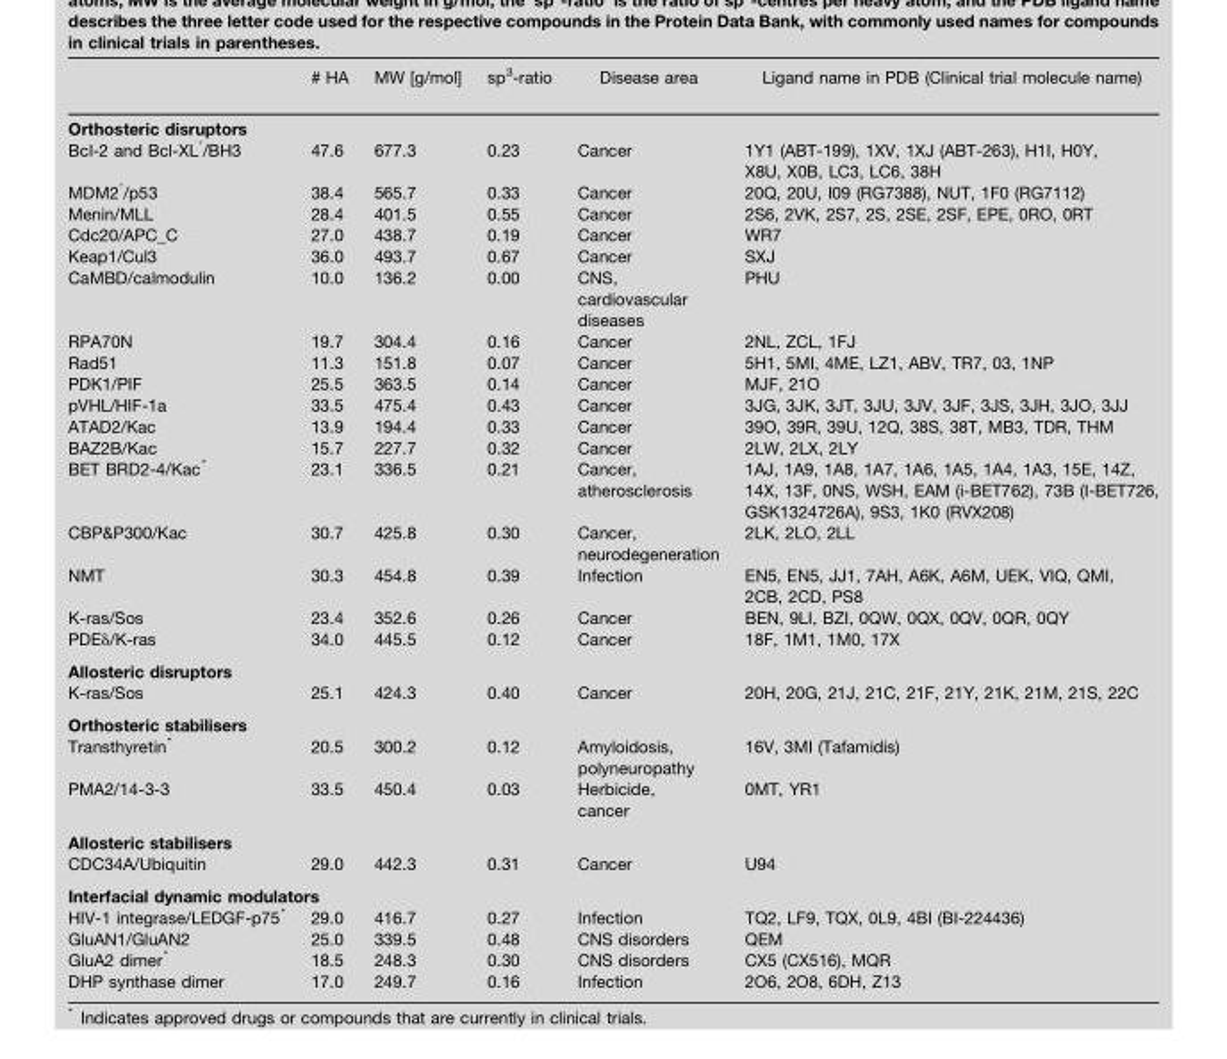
<table><thead><tr><td></td><td># HA</td><td>MW [g/mol]</td><td>sp<sup>3</sup>-ratio</td><td>Disease area</td><td>Ligand name in PDB (Clinical trial molecule name)</td></tr></thead><tbody><tr><td colspan="6">Orthosteric disruptors</td></tr><tr><td>Bcl-2 and Bcl-XL*/BH3</td><td>47.6</td><td>677.3</td><td>0.23</td><td>Cancer</td><td>1Y1 (ABT-199), 1XV, 1XJ (ABT-263), H1I, H0Y, X8U, X0B, LC3, LC6, 38H</td></tr><tr><td>MDM2*/p53</td><td>38.4</td><td>565.7</td><td>0.33</td><td>Cancer</td><td>20Q, 20U, I09 (RG7388), NUT, 1F0 (RG7112)</td></tr><tr><td>Menin/MLL</td><td>28.4</td><td>401.5</td><td>0.55</td><td>Cancer</td><td>2S6, 2VK, 2S7, 2S, 2SE, 2SF, EPE, 0RO, 0RT</td></tr><tr><td>Cdc20/APC_C</td><td>27.0</td><td>438.7</td><td>0.19</td><td>Cancer</td><td>WR7</td></tr><tr><td>Keap1/Cul3</td><td>36.0</td><td>493.7</td><td>0.67</td><td>Cancer</td><td>SXJ</td></tr><tr><td>CaMBD/calmodulin</td><td>10.0</td><td>136.2</td><td>0.00</td><td>CNS, cardiovascular diseases</td><td>PHU</td></tr><tr><td>RPA70N</td><td>19.7</td><td>304.4</td><td>0.16</td><td>Cancer</td><td>2NL, ZCL, 1FJ</td></tr><tr><td>Rad51</td><td>11.3</td><td>151.8</td><td>0.07</td><td>Cancer</td><td>5H1, 5MI, 4ME, LZ1, ABV, TR7, 03, 1NP</td></tr><tr><td>PDK1/PIF</td><td>25.5</td><td>363.5</td><td>0.14</td><td>Cancer</td><td>MJF, 21O</td></tr><tr><td>pVHL/HIF-1a</td><td>33.5</td><td>475.4</td><td>0.43</td><td>Cancer</td><td>3JG, 3JK, 3JT, 3JU, 3JV, 3JF, 3JS, 3JH, 3JO, 3JJ</td></tr><tr><td>ATAD2/Kac</td><td>13.9</td><td>194.4</td><td>0.33</td><td>Cancer</td><td>39O, 39R, 39U, 12Q, 38S, 38T, MB3, TDR, THM</td></tr><tr><td>BAZ2B/Kac</td><td>15.7</td><td>227.7</td><td>0.32</td><td>Cancer</td><td>2LW, 2LX, 2LY</td></tr><tr><td>BET BRD2-4/Kac*</td><td>23.1</td><td>336.5</td><td>0.21</td><td>Cancer, atherosclerosis</td><td>1AJ, 1A9, 1A8, 1A7, 1A6, 1A5, 1A4, 1A3, 15E, 14Z, 14X, 13F, 0NS, WSH, EAM (i-BET762), 73B (I-BET726, GSK1324726A), 9S3, 1K0 (RVX208)</td></tr><tr><td>CBP&amp;P300/Kac</td><td>30.7</td><td>425.8</td><td>0.30</td><td>Cancer, neurodegeneration</td><td>2LK, 2LO, 2LL</td></tr><tr><td>NMT</td><td>30.3</td><td>454.8</td><td>0.39</td><td>Infection</td><td>EN5, EN5, JJ1, 7AH, A6K, A6M, UEK, VIQ, QMI, 2CB, 2CD, PS8</td></tr><tr><td>K-ras/Sos</td><td>23.4</td><td>352.6</td><td>0.26</td><td>Cancer</td><td>BEN, 9LI, BZI, 0QW, 0QX, 0QV, 0QR, 0QY</td></tr><tr><td>PDEδ/K-ras</td><td>34.0</td><td>445.5</td><td>0.12</td><td>Cancer</td><td>18F, 1M1, 1M0, 17X</td></tr><tr><td colspan="6">Allosteric disruptors</td></tr><tr><td>K-ras/Sos</td><td>25.1</td><td>424.3</td><td>0.40</td><td>Cancer</td><td>20H, 20G, 21J, 21C, 21F, 21Y, 21K, 21M, 21S, 22C</td></tr><tr><td colspan="6">Orthosteric stabilisers</td></tr><tr><td>Transthyretin*</td><td>20.5</td><td>300.2</td><td>0.12</td><td>Amyloidosis, polyneuropathy</td><td>16V, 3MI (Tafamidis)</td></tr><tr><td>PMA2/14-3-3</td><td>33.5</td><td>450.4</td><td>0.03</td><td>Herbicide, cancer</td><td>0MT, YR1</td></tr><tr><td colspan="6">Allosteric stabilisers</td></tr><tr><td>CDC34A/Ubiquitin</td><td>29.0</td><td>442.3</td><td>0.31</td><td>Cancer</td><td>U94</td></tr><tr><td colspan="6">Interfacial dynamic modulators</td></tr><tr><td>HIV-1 integrase/LEDGF-p75*</td><td>29.0</td><td>416.7</td><td>0.27</td><td>Infection</td><td>TQ2, LF9, TQX, 0L9, 4BI (BI-224436)</td></tr><tr><td>GluAN1/GluAN2</td><td>25.0</td><td>339.5</td><td>0.48</td><td>CNS disorders</td><td>QEM</td></tr><tr><td>GluA2 dimer*</td><td>18.5</td><td>248.3</td><td>0.30</td><td>CNS disorders</td><td>CX5 (CX516), MQR</td></tr><tr><td>DHP synthase dimer</td><td>17.0</td><td>249.7</td><td>0.16</td><td>Infection</td><td>2O6, 2O8, 6DH, Z13</td></tr></tbody></table>